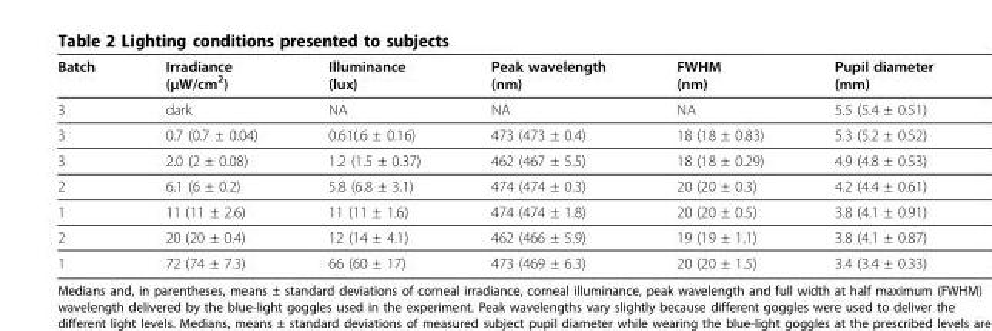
<table><thead><tr><td>Batch</td><td>Irradiance (μW/cm<sup>2</sup>)</td><td>Illuminance (lux)</td><td>Peak wavelength (nm)</td><td>FWHM (nm)</td><td>Pupil diameter (mm)</td></tr></thead><tbody><tr><td>3</td><td>dark</td><td>NA</td><td>NA</td><td>NA</td><td>5.5 (5.4 ± 0.51)</td></tr><tr><td>3</td><td>0.7 (0.7 ± 0.04)</td><td>0.61(.6 ± 0.16)</td><td>473 (473 ± 0.4)</td><td>18 (18 ± 0.83)</td><td>5.3 (5.2 ± 0.52)</td></tr><tr><td>3</td><td>2.0 (2 ± 0.08)</td><td>1.2 (1.5 ± 0.37)</td><td>462 (467 ± 5.5)</td><td>18 (18 ± 0.29)</td><td>4.9 (4.8 ± 0.53)</td></tr><tr><td>2</td><td>6.1 (6 ± 0.2)</td><td>5.8 (6.8 ± 3.1)</td><td>474 (474 ± 0.3)</td><td>20 (20 ± 0.3)</td><td>4.2 (4.4 ± 0.61)</td></tr><tr><td>1</td><td>11 (11 ± 2.6)</td><td>11 (11 ± 1.6)</td><td>474 (474 ± 1.8)</td><td>20 (20 ± 0.5)</td><td>3.8 (4.1 ± 0.91)</td></tr><tr><td>2</td><td>20 (20 ± 0.4)</td><td>12 (14 ± 4.1)</td><td>462 (466 ± 5.9)</td><td>19 (19 ± 1.1)</td><td>3.8 (4.1 ± 0.87)</td></tr><tr><td>1</td><td>72 (74 ± 7.3)</td><td>66 (60 ± 17)</td><td>473 (469 ± 6.3)</td><td>20 (20 ± 1.5)</td><td>3.4 (3.4 ± 0.33)</td></tr></tbody></table>